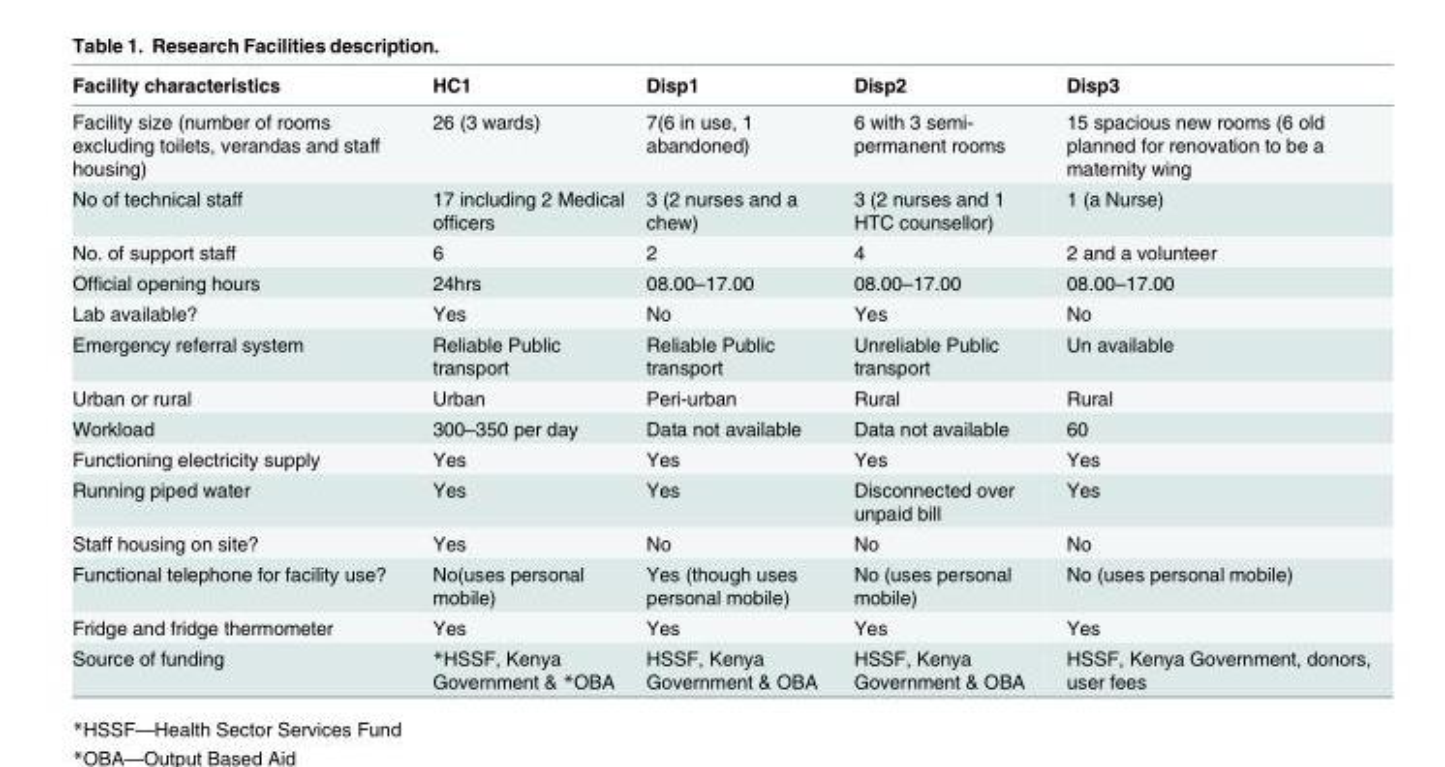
<table><thead><tr><td>Facility characteristics</td><td>HC1</td><td>Disp1</td><td>Disp2</td><td>Disp3</td></tr></thead><tbody><tr><td>Facility size (number of rooms excluding toilets, verandas and staff housing)</td><td>26 (3 wards)</td><td>7(6 in use, 1 abandoned)</td><td>6 with 3 semi- permanent rooms</td><td>15 spacious new rooms (6 old planned for renovation to be a maternity wing</td></tr><tr><td>No of technical staff</td><td>17 including 2 Medical officers</td><td>3 (2 nurses and a chew)</td><td>3 (2 nurses and 1 HTC counsellor)</td><td>1 (a Nurse)</td></tr><tr><td>No. of support staff</td><td>6</td><td>2</td><td>4</td><td>2 and a volunteer</td></tr><tr><td>Official opening hours</td><td>24hrs</td><td>08.00–17.00</td><td>08.00–17.00</td><td>08.00–17.00</td></tr><tr><td>Lab available?</td><td>Yes</td><td>No</td><td>Yes</td><td>No</td></tr><tr><td>Emergency referral system</td><td>Reliable Public transport</td><td>Reliable Public transport</td><td>Unreliable Public transport</td><td>Un available</td></tr><tr><td>Urban or rural</td><td>Urban</td><td>Peri-urban</td><td>Rural</td><td>Rural</td></tr><tr><td>Workload</td><td>300–350 per day</td><td>Data not available</td><td>Data not available</td><td>60</td></tr><tr><td>Functioning electricity supply</td><td>Yes</td><td>Yes</td><td>Yes</td><td>Yes</td></tr><tr><td>Running piped water</td><td>Yes</td><td>Yes</td><td>Disconnected over unpaid bill</td><td>Yes</td></tr><tr><td>Staff housing on site?</td><td>Yes</td><td>No</td><td>No</td><td>No</td></tr><tr><td>Functional telephone for facility use?</td><td>No(uses personal mobile)</td><td>Yes (though uses personal mobile)</td><td>No (uses personal mobile)</td><td>No (uses personal mobile)</td></tr><tr><td>Fridge and fridge thermometer</td><td>Yes</td><td>Yes</td><td>Yes</td><td>Yes</td></tr><tr><td>Source of funding</td><td>*HSSF, Kenya Government &amp; *OBA</td><td>HSSF, Kenya Government &amp; OBA</td><td>HSSF, Kenya Government &amp; OBA</td><td>HSSF, Kenya Government, donors, user fees</td></tr></tbody></table>